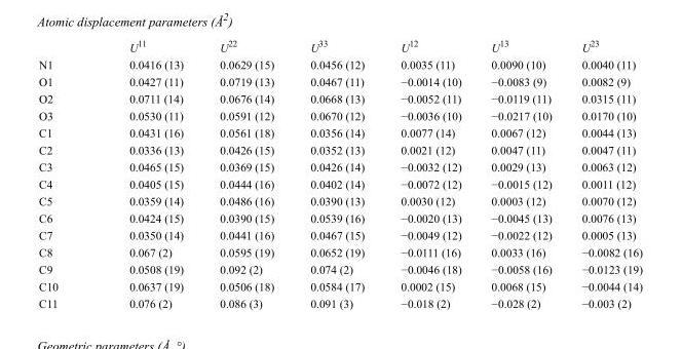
<table><thead><tr><td></td><td>U<sup>11</sup></td><td>U<sup>22</sup></td><td>U<sup>33</sup></td><td>U<sup>12</sup></td><td>U<sup>13</sup></td><td>U<sup>23</sup></td></tr></thead><tbody><tr><td>N1</td><td>0.0416 (13)</td><td>0.0629 (15)</td><td>0.0456 (12)</td><td>0.0035 (11)</td><td>0.0090 (10)</td><td>0.0040 (11)</td></tr><tr><td>O1</td><td>0.0427 (11)</td><td>0.0719 (13)</td><td>0.0467 (11)</td><td>−0.0014 (10)</td><td>−0.0083 (9)</td><td>0.0082 (9)</td></tr><tr><td>O2</td><td>0.0711 (14)</td><td>0.0676 (14)</td><td>0.0668 (13)</td><td>−0.0052 (11)</td><td>−0.0119 (11)</td><td>0.0315 (11)</td></tr><tr><td>O3</td><td>0.0530 (11)</td><td>0.0591 (12)</td><td>0.0670 (12)</td><td>−0.0036 (10)</td><td>−0.0217 (10)</td><td>0.0170 (10)</td></tr><tr><td>C1</td><td>0.0431 (16)</td><td>0.0561 (18)</td><td>0.0356 (14)</td><td>0.0077 (14)</td><td>0.0067 (12)</td><td>0.0044 (13)</td></tr><tr><td>C2</td><td>0.0336 (13)</td><td>0.0426 (15)</td><td>0.0352 (13)</td><td>0.0021 (12)</td><td>0.0047 (11)</td><td>0.0047 (11)</td></tr><tr><td>C3</td><td>0.0465 (15)</td><td>0.0369 (15)</td><td>0.0426 (14)</td><td>−0.0032 (12)</td><td>0.0029 (13)</td><td>0.0063 (12)</td></tr><tr><td>C4</td><td>0.0405 (15)</td><td>0.0444 (16)</td><td>0.0402 (14)</td><td>−0.0072 (12)</td><td>−0.0015 (12)</td><td>0.0011 (12)</td></tr><tr><td>C5</td><td>0.0359 (14)</td><td>0.0486 (16)</td><td>0.0390 (13)</td><td>0.0030 (12)</td><td>0.0003 (12)</td><td>0.0070 (12)</td></tr><tr><td>C6</td><td>0.0424 (15)</td><td>0.0390 (15)</td><td>0.0539 (16)</td><td>−0.0020 (13)</td><td>−0.0045 (13)</td><td>0.0076 (13)</td></tr><tr><td>C7</td><td>0.0350 (14)</td><td>0.0441 (16)</td><td>0.0467 (15)</td><td>−0.0049 (12)</td><td>−0.0022 (12)</td><td>0.0005 (13)</td></tr><tr><td>C8</td><td>0.067 (2)</td><td>0.0595 (19)</td><td>0.0652 (19)</td><td>−0.0111 (16)</td><td>0.0033 (16)</td><td>−0.0082 (16)</td></tr><tr><td>C9</td><td>0.0508 (19)</td><td>0.092 (2)</td><td>0.074 (2)</td><td>−0.0046 (18)</td><td>−0.0058 (16)</td><td>−0.0123 (19)</td></tr><tr><td>C10</td><td>0.0637 (19)</td><td>0.0506 (18)</td><td>0.0584 (17)</td><td>0.0002 (15)</td><td>0.0068 (15)</td><td>−0.0044 (14)</td></tr><tr><td>C11</td><td>0.076 (2)</td><td>0.086 (3)</td><td>0.091 (3)</td><td>−0.018 (2)</td><td>−0.028 (2)</td><td>−0.003 (2)</td></tr></tbody></table>